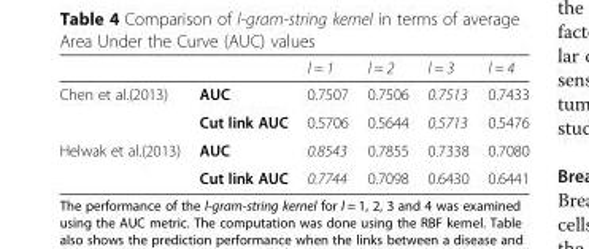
<table><thead><tr><td></td><td></td><td>l = 1</td><td>l = 2</td><td>l = 3</td><td>l = 4</td></tr></thead><tbody><tr><td rowspan="2">Chen et al.(2013)</td><td>AUC</td><td>0.7507</td><td>0.7506</td><td>0.7513</td><td>0.7433</td></tr><tr><td>Cut link AUC</td><td>0.5706</td><td>0.5644</td><td>0.5713</td><td>0.5476</td></tr><tr><td rowspan="2">Helwak et al.(2013)</td><td>AUC</td><td>0.8543</td><td>0.7855</td><td>0.7338</td><td>0.7080</td></tr><tr><td>Cut link AUC</td><td>0.7744</td><td>0.7098</td><td>0.6430</td><td>0.6441</td></tr></tbody></table>